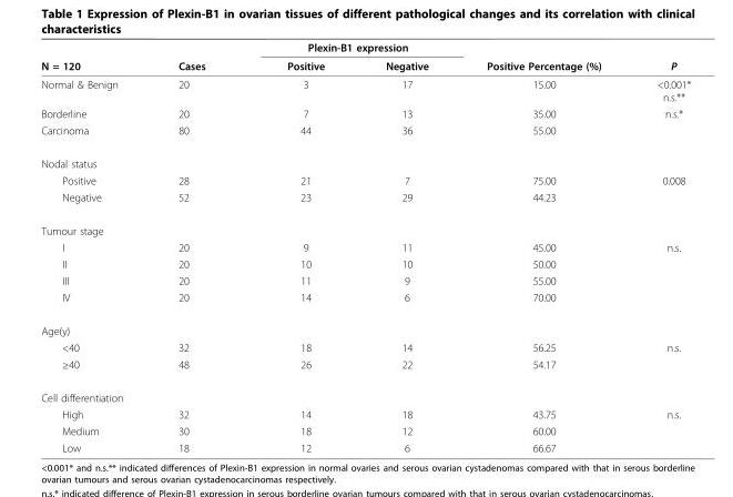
<table><thead><tr><td rowspan="2">N = 120</td><td rowspan="2">Cases</td><td colspan="2">Plexin-B1 expression</td><td rowspan="2">Positive Percentage (%)</td><td rowspan="2">P</td></tr><tr><td>Positive</td><td>Negative</td></tr></thead><tbody><tr><td>Normal &amp; Benign</td><td>20</td><td>3</td><td>17</td><td>15.00</td><td>&lt;0.001* n.s.**</td></tr><tr><td>Borderline</td><td>20</td><td>7</td><td>13</td><td>35.00</td><td>n.s.*</td></tr><tr><td>Carcinoma</td><td>80</td><td>44</td><td>36</td><td>55.00</td><td></td></tr><tr><td colspan="6">Nodal status</td></tr><tr><td>Positive</td><td>28</td><td>21</td><td>7</td><td>75.00</td><td>0.008</td></tr><tr><td>Negative</td><td>52</td><td>23</td><td>29</td><td>44.23</td><td></td></tr><tr><td colspan="6">Tumour stage</td></tr><tr><td>I</td><td>20</td><td>9</td><td>11</td><td>45.00</td><td>n.s.</td></tr><tr><td>II</td><td>20</td><td>10</td><td>10</td><td>50.00</td><td></td></tr><tr><td>III</td><td>20</td><td>11</td><td>9</td><td>55.00</td><td></td></tr><tr><td>IV</td><td>20</td><td>14</td><td>6</td><td>70.00</td><td></td></tr><tr><td colspan="6">Age(y)</td></tr><tr><td>&lt;40</td><td>32</td><td>18</td><td>14</td><td>56.25</td><td>n.s.</td></tr><tr><td>≥40</td><td>48</td><td>26</td><td>22</td><td>54.17</td><td></td></tr><tr><td colspan="6">Cell differentiation</td></tr><tr><td>High</td><td>32</td><td>14</td><td>18</td><td>43.75</td><td>n.s.</td></tr><tr><td>Medium</td><td>30</td><td>18</td><td>12</td><td>60.00</td><td></td></tr><tr><td>Low</td><td>18</td><td>12</td><td>6</td><td>66.67</td><td></td></tr></tbody></table>